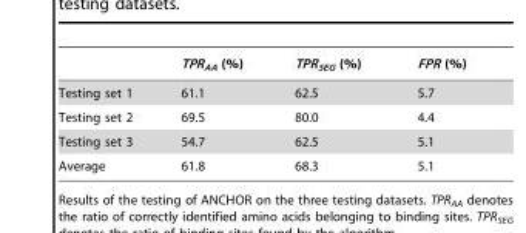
<table><thead><tr><td></td><td>TPR<sub>AA</sub> (%)</td><td>TPR<sub>SEG</sub> (%)</td><td>FPR (%)</td></tr></thead><tbody><tr><td>Testing set 1</td><td>61.1</td><td>62.5</td><td>5.7</td></tr><tr><td>Testing set 2</td><td>69.5</td><td>80.0</td><td>4.4</td></tr><tr><td>Testing set 3</td><td>54.7</td><td>62.5</td><td>5.1</td></tr><tr><td>Average</td><td>61.8</td><td>68.3</td><td>5.1</td></tr></tbody></table>